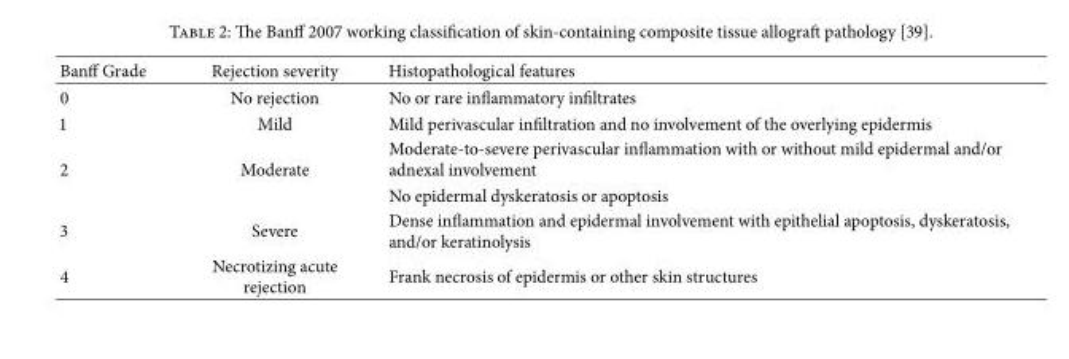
<table><thead><tr><td>Banff Grade</td><td>Rejection severity</td><td>Histopathological features</td></tr></thead><tbody><tr><td>0</td><td>No rejection</td><td>No or rare inflammatory infiltrates</td></tr><tr><td>1</td><td>Mild</td><td>Mild perivascular infiltration and no involvement of the overlying epidermis</td></tr><tr><td rowspan="2">2</td><td rowspan="2">Moderate</td><td>Moderate-to-severe perivascular inflammation with or without mild epidermal and/or adnexal involvement</td></tr><tr><td>No epidermal dyskeratosis or apoptosis</td></tr><tr><td>3</td><td>Severe</td><td>Dense inflammation and epidermal involvement with epithelial apoptosis, dyskeratosis, and/or keratinolysis</td></tr><tr><td>4</td><td>Necrotizing acute rejection</td><td>Frank necrosis of epidermis or other skin structures</td></tr></tbody></table>